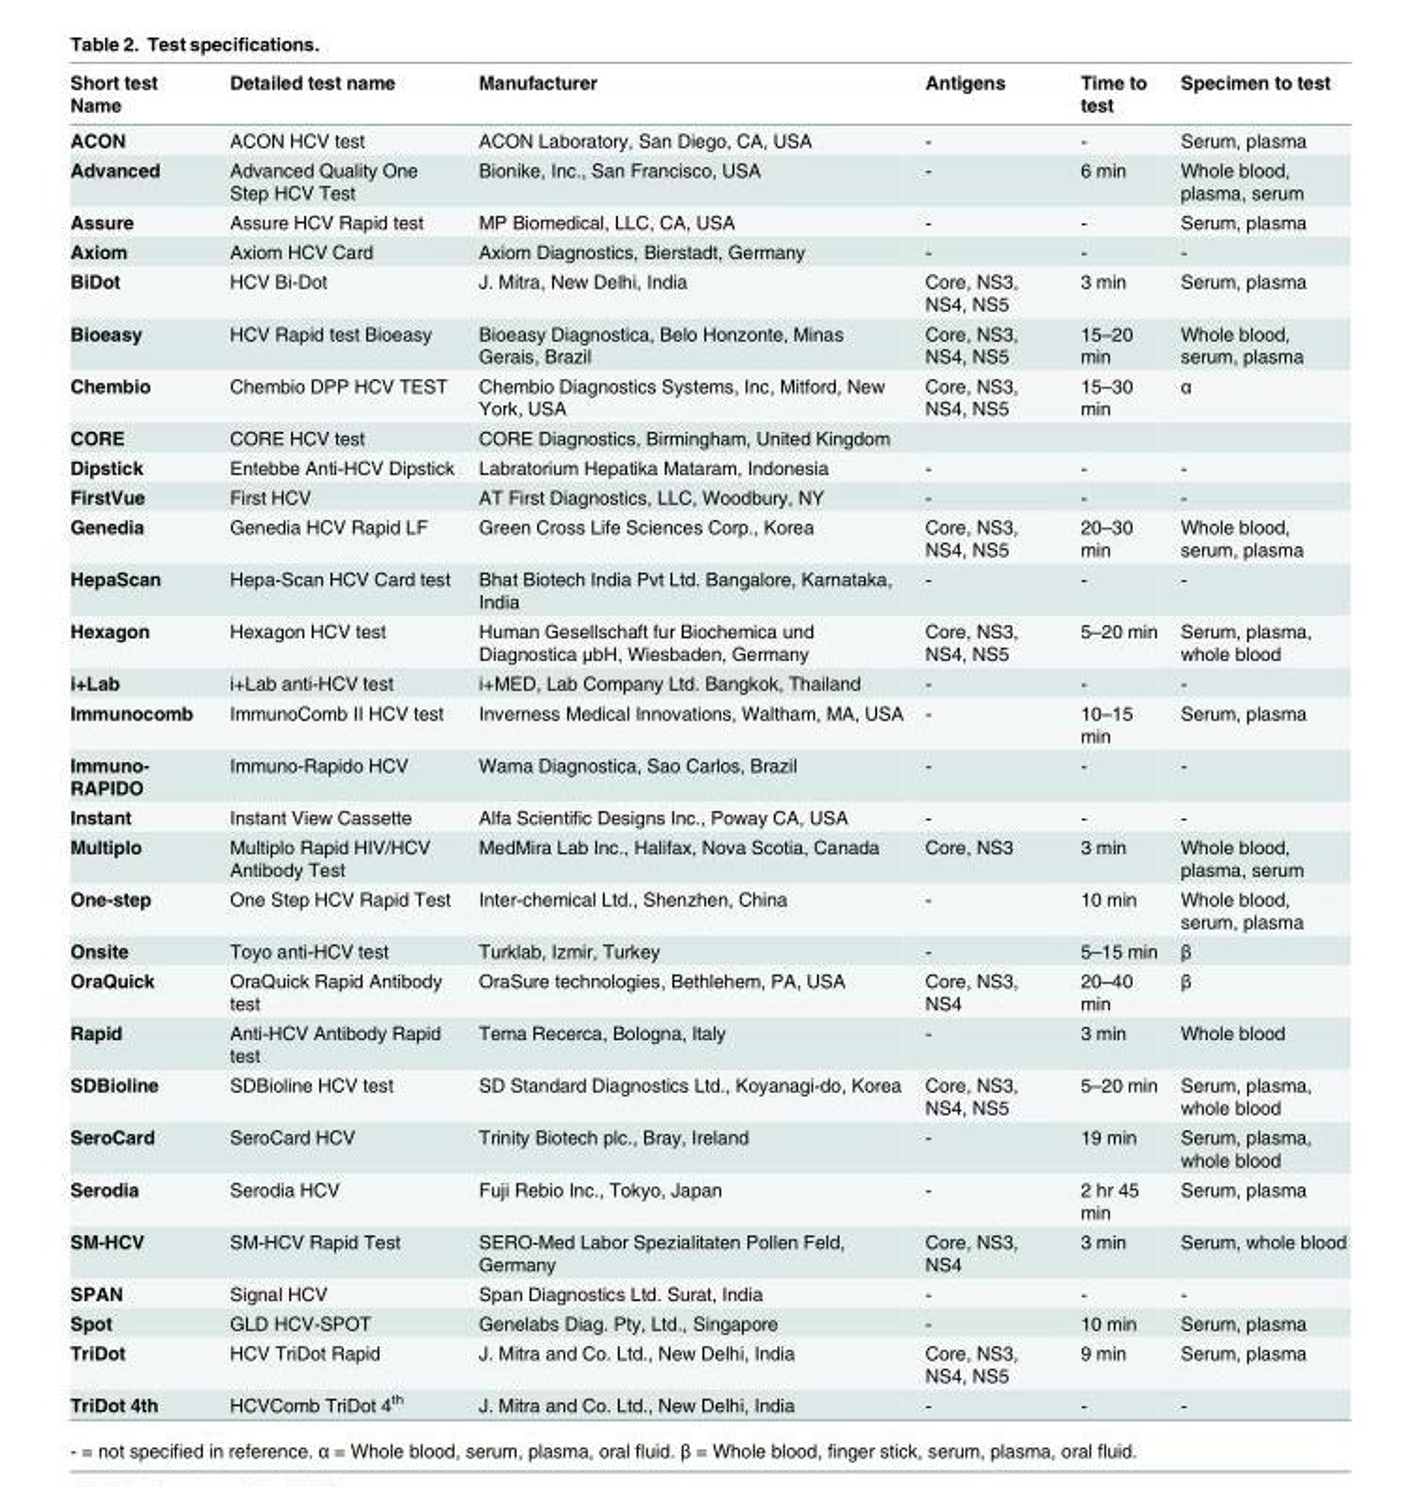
<table><thead><tr><td>Short test Name</td><td>Detailed test name</td><td>Manufacturer</td><td>Antigens</td><td>Time to test</td><td>Specimen to test</td></tr></thead><tbody><tr><td>ACON</td><td>ACON HCV test</td><td>ACON Laboratory, San Diego, CA, USA</td><td>-</td><td>-</td><td>Serum, plasma</td></tr><tr><td>Advanced</td><td>Advanced Quality One Step HCV Test</td><td>Bionike, Inc., San Francisco, USA</td><td>-</td><td>6 min</td><td>Whole blood, plasma, serum</td></tr><tr><td>Assure</td><td>Assure HCV Rapid test</td><td>MP Biomedical, LLC, CA, USA</td><td>-</td><td>-</td><td>Serum, plasma</td></tr><tr><td>Axiom</td><td>Axiom HCV Card</td><td>Axiom Diagnostics, Bierstadt, Germany</td><td>-</td><td>-</td><td>-</td></tr><tr><td>BiDot</td><td>HCV Bi-Dot</td><td>J. Mitra, New Delhi, India</td><td>Core, NS3, NS4, NS5</td><td>3 min</td><td>Serum, plasma</td></tr><tr><td>Bioeasy</td><td>HCV Rapid test Bioeasy</td><td>Bioeasy Diagnostica, Belo Honzonte, Minas Gerais, Brazil</td><td>Core, NS3, NS4, NS5</td><td>15–20 min</td><td>Whole blood, serum, plasma</td></tr><tr><td>Chembio</td><td>Chembio DPP HCV TEST</td><td>Chembio Diagnostics Systems, Inc, Mitford, New York, USA</td><td>Core, NS3, NS4, NS5</td><td>15–30 min</td><td>α</td></tr><tr><td>CORE</td><td>CORE HCV test</td><td>CORE Diagnostics, Birmingham, United Kingdom</td><td></td><td></td><td></td></tr><tr><td>Dipstick</td><td>Entebbe Anti-HCV Dipstick</td><td>Labratorium Hepatika Mataram, Indonesia</td><td>-</td><td>-</td><td>-</td></tr><tr><td>FirstVue</td><td>First HCV</td><td>AT First Diagnostics, LLC, Woodbury, NY</td><td>-</td><td>-</td><td>-</td></tr><tr><td>Genedia</td><td>Genedia HCV Rapid LF</td><td>Green Cross Life Sciences Corp., Korea</td><td>Core, NS3, NS4, NS5</td><td>20–30 min</td><td>Whole blood, serum, plasma</td></tr><tr><td>HepaScan</td><td>Hepa-Scan HCV Card test</td><td>Bhat Biotech India Pvt Ltd. Bangalore, Karnataka, India</td><td>-</td><td>-</td><td>-</td></tr><tr><td>Hexagon</td><td>Hexagon HCV test</td><td>Human Gesellschaft fur Biochemica und Diagnostica μbH, Wiesbaden, Germany</td><td>Core, NS3, NS4, NS5</td><td>5–20 min</td><td>Serum, plasma, whole blood</td></tr><tr><td>i+Lab</td><td>i+Lab anti-HCV test</td><td>i+MED, Lab Company Ltd. Bangkok, Thailand</td><td>-</td><td>-</td><td>-</td></tr><tr><td>Immunocomb</td><td>ImmunoComb II HCV test</td><td>Inverness Medical Innovations, Waltham, MA, USA</td><td>-</td><td>10–15 min</td><td>Serum, plasma</td></tr><tr><td>Immuno- RAPIDO</td><td>Immuno-Rapido HCV</td><td>Wama Diagnostica, Sao Carlos, Brazil</td><td>-</td><td>-</td><td>-</td></tr><tr><td>Instant</td><td>Instant View Cassette</td><td>Alfa Scientific Designs Inc., Poway CA, USA</td><td>-</td><td>-</td><td>-</td></tr><tr><td>Multiplo</td><td>Multiplo Rapid HIV/HCV Antibody Test</td><td>MedMira Lab Inc., Halifax, Nova Scotia, Canada</td><td>Core, NS3</td><td>3 min</td><td>Whole blood, plasma, serum</td></tr><tr><td>One-step</td><td>One Step HCV Rapid Test</td><td>Inter-chemical Ltd., Shenzhen, China</td><td>-</td><td>10 min</td><td>Whole blood, serum, plasma</td></tr><tr><td>Onsite</td><td>Toyo anti-HCV test</td><td>Turklab, Izmir, Turkey</td><td>-</td><td>5–15 min</td><td>β</td></tr><tr><td>OraQuick</td><td>OraQuick Rapid Antibody test</td><td>OraSure technologies, Bethlehem, PA, USA</td><td>Core, NS3, NS4</td><td>20–40 min</td><td>β</td></tr><tr><td>Rapid</td><td>Anti-HCV Antibody Rapid test</td><td>Tema Recerca, Bologna, Italy</td><td>-</td><td>3 min</td><td>Whole blood</td></tr><tr><td>SDBioline</td><td>SDBioline HCV test</td><td>SD Standard Diagnostics Ltd., Koyanagi-do, Korea</td><td>Core, NS3, NS4, NS5</td><td>5–20 min</td><td>Serum, plasma, whole blood</td></tr><tr><td>SeroCard</td><td>SeroCard HCV</td><td>Trinity Biotech plc., Bray, Ireland</td><td>-</td><td>19 min</td><td>Serum, plasma, whole blood</td></tr><tr><td>Serodia</td><td>Serodia HCV</td><td>Fuji Rebio Inc., Tokyo, Japan</td><td>-</td><td>2 hr 45 min</td><td>Serum, plasma</td></tr><tr><td>SM-HCV</td><td>SM-HCV Rapid Test</td><td>SERO-Med Labor Spezialitaten Pollen Feld, Germany</td><td>Core, NS3, NS4</td><td>3 min</td><td>Serum, whole blood</td></tr><tr><td>SPAN</td><td>Signal HCV</td><td>Span Diagnostics Ltd. Surat, India</td><td>-</td><td>-</td><td>-</td></tr><tr><td>Spot</td><td>GLD HCV-SPOT</td><td>Genelabs Diag. Pty, Ltd., Singapore</td><td>-</td><td>10 min</td><td>Serum, plasma</td></tr><tr><td>TriDot</td><td>HCV TriDot Rapid</td><td>J. Mitra and Co. Ltd., New Delhi, India</td><td>Core, NS3, NS4, NS5</td><td>9 min</td><td>Serum, plasma</td></tr><tr><td>TriDot 4th</td><td>HCVComb TriDot 4<sup>th</sup></td><td>J. Mitra and Co. Ltd., New Delhi, India</td><td>-</td><td>-</td><td>-</td></tr></tbody></table>